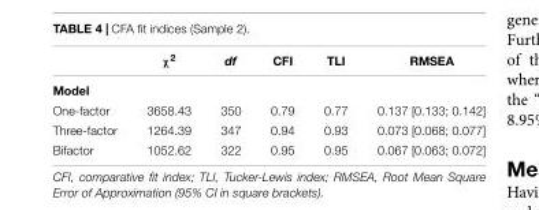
<table><thead><tr><td></td><td>χ<sup>2</sup></td><td>df</td><td>CFI</td><td>TLI</td><td>RMSEA</td></tr></thead><tbody><tr><td colspan="6">Model</td></tr><tr><td>One-factor</td><td>3658.43</td><td>350</td><td>0.79</td><td>0.77</td><td>0.137 [0.133; 0.142]</td></tr><tr><td>Three-factor</td><td>1264.39</td><td>347</td><td>0.94</td><td>0.93</td><td>0.073 [0.068; 0.077]</td></tr><tr><td>Bifactor</td><td>1052.62</td><td>322</td><td>0.95</td><td>0.95</td><td>0.067 [0.063; 0.072]</td></tr></tbody></table>